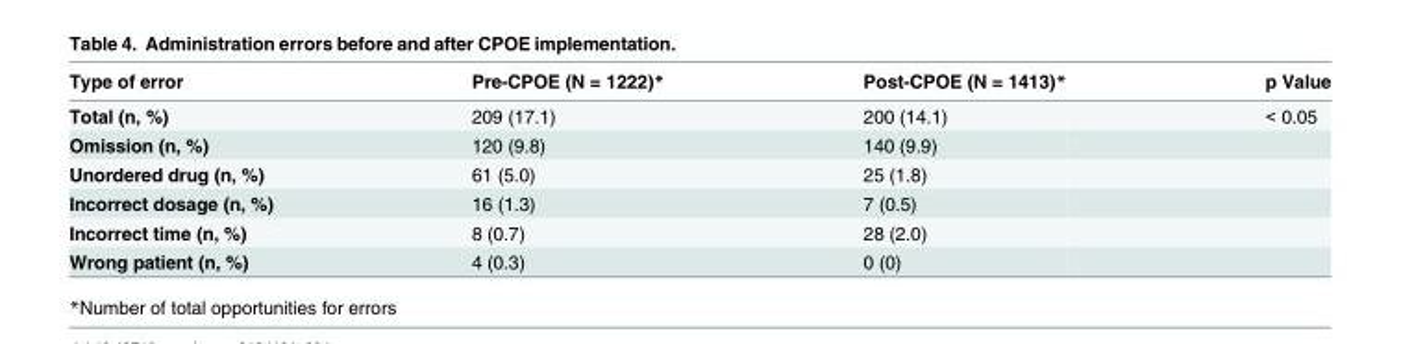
<table><thead><tr><td>Type of error</td><td>Pre-CPOE (N = 1222)*</td><td>Post-CPOE (N = 1413)*</td><td>p Value</td></tr></thead><tbody><tr><td>Total (n, %)</td><td>209 (17.1)</td><td>200 (14.1)</td><td>&lt; 0.05</td></tr><tr><td>Omission (n, %)</td><td>120 (9.8)</td><td>140 (9.9)</td><td></td></tr><tr><td>Unordered drug (n, %)</td><td>61 (5.0)</td><td>25 (1.8)</td><td></td></tr><tr><td>Incorrect dosage (n, %)</td><td>16 (1.3)</td><td>7 (0.5)</td><td></td></tr><tr><td>Incorrect time (n, %)</td><td>8 (0.7)</td><td>28 (2.0)</td><td></td></tr><tr><td>Wrong patient (n, %)</td><td>4 (0.3)</td><td>0 (0)</td><td></td></tr></tbody></table>